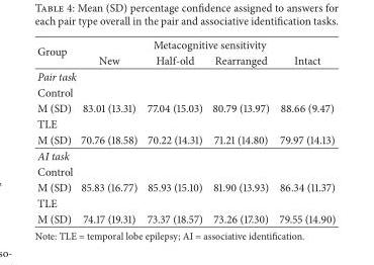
<table><thead><tr><td rowspan="2">Group</td><td colspan="4">Metacognitive sensitivity</td></tr><tr><td>New</td><td>Half-old</td><td>Rearranged</td><td>Intact</td></tr></thead><tbody><tr><td colspan="5">Pair task</td></tr><tr><td colspan="5">Control</td></tr><tr><td>M (SD)</td><td>83.01 (13.31)</td><td>77.04 (15.03)</td><td>80.79 (13.97)</td><td>88.66 (9.47)</td></tr><tr><td colspan="5">TLE</td></tr><tr><td>M (SD)</td><td>70.76 (18.58)</td><td>70.22 (14.31)</td><td>71.21 (14.80)</td><td>79.97 (14.13)</td></tr><tr><td colspan="5">AI task</td></tr><tr><td colspan="5">Control</td></tr><tr><td>M (SD)</td><td>85.83 (16.77)</td><td>85.93 (15.10)</td><td>81.90 (13.93)</td><td>86.34 (11.37)</td></tr><tr><td colspan="5">TLE</td></tr><tr><td>M (SD)</td><td>74.17 (19.31)</td><td>73.37 (18.57)</td><td>73.26 (17.30)</td><td>79.55 (14.90)</td></tr></tbody></table>